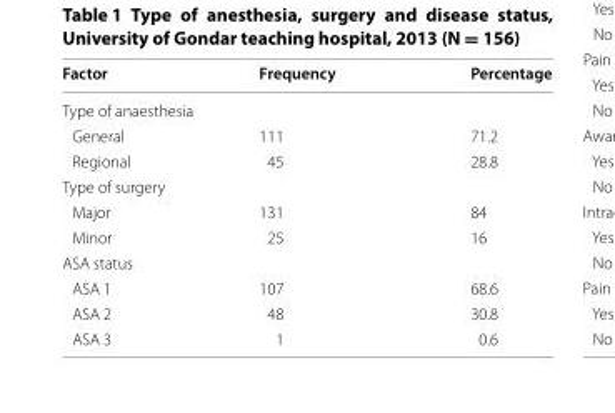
<table><thead><tr><td>Factor</td><td>Frequency</td><td>Percentage</td></tr></thead><tbody><tr><td colspan="3">Type of anaesthesia</td></tr><tr><td>General</td><td>111</td><td>71.2</td></tr><tr><td>Regional</td><td>45</td><td>28.8</td></tr><tr><td colspan="3">Type of surgery</td></tr><tr><td>Major</td><td>131</td><td>84</td></tr><tr><td>Minor</td><td>25</td><td>16</td></tr><tr><td colspan="3">ASA status</td></tr><tr><td>ASA 1</td><td>107</td><td>68.6</td></tr><tr><td>ASA 2</td><td>48</td><td>30.8</td></tr><tr><td>ASA 3</td><td>1</td><td>0.6</td></tr></tbody></table>